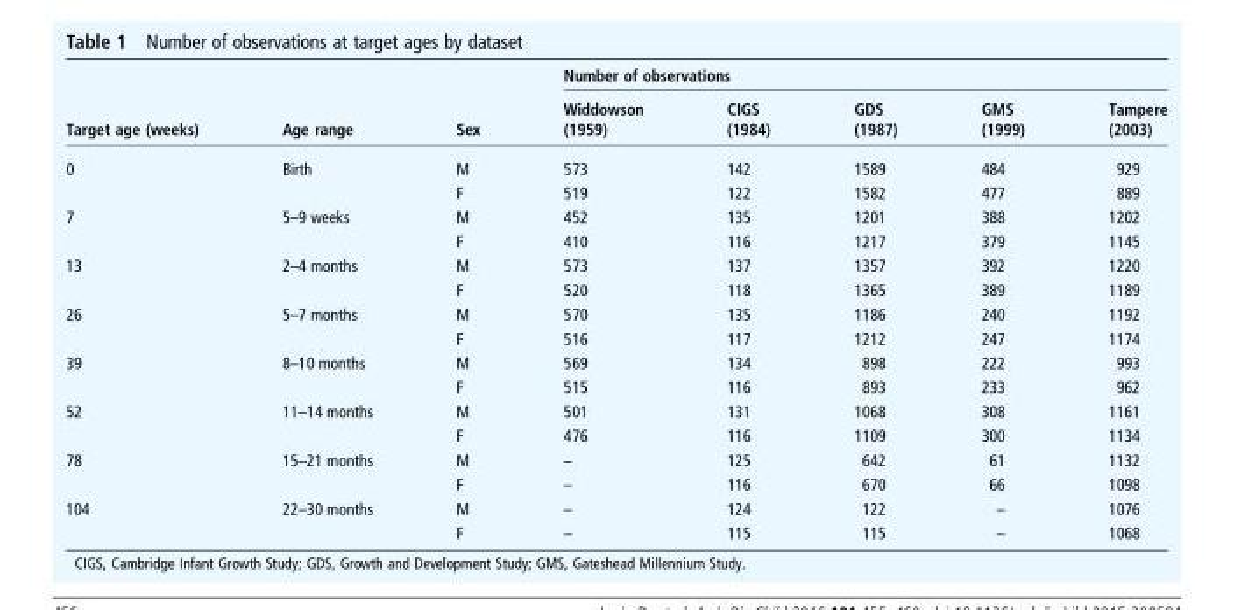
<table><thead><tr><td rowspan="2">Target age (weeks)</td><td rowspan="2">Age range</td><td rowspan="2">Sex</td><td colspan="5">Number of observations</td></tr><tr><td>Widdowson (1959)</td><td>CIGS (1984)</td><td>GDS (1987)</td><td>GMS (1999)</td><td>Tampere (2003)</td></tr></thead><tbody><tr><td rowspan="2">0</td><td>Birth</td><td>M</td><td>573</td><td>142</td><td>1589</td><td>484</td><td>929</td></tr><tr><td></td><td>F</td><td>519</td><td>122</td><td>1582</td><td>477</td><td>889</td></tr><tr><td rowspan="2">7</td><td>5–9 weeks</td><td>M</td><td>452</td><td>135</td><td>1201</td><td>388</td><td>1202</td></tr><tr><td></td><td>F</td><td>410</td><td>116</td><td>1217</td><td>379</td><td>1145</td></tr><tr><td rowspan="2">13</td><td>2–4 months</td><td>M</td><td>573</td><td>137</td><td>1357</td><td>392</td><td>1220</td></tr><tr><td></td><td>F</td><td>520</td><td>118</td><td>1365</td><td>389</td><td>1189</td></tr><tr><td rowspan="2">26</td><td>5–7 months</td><td>M</td><td>570</td><td>135</td><td>1186</td><td>240</td><td>1192</td></tr><tr><td></td><td>F</td><td>516</td><td>117</td><td>1212</td><td>247</td><td>1174</td></tr><tr><td rowspan="2">39</td><td>8–10 months</td><td>M</td><td>569</td><td>134</td><td>898</td><td>222</td><td>993</td></tr><tr><td></td><td>F</td><td>515</td><td>116</td><td>893</td><td>233</td><td>962</td></tr><tr><td rowspan="2">52</td><td>11–14 months</td><td>M</td><td>501</td><td>131</td><td>1068</td><td>308</td><td>1161</td></tr><tr><td></td><td>F</td><td>476</td><td>116</td><td>1109</td><td>300</td><td>1134</td></tr><tr><td rowspan="2">78</td><td>15–21 months</td><td>M</td><td>–</td><td>125</td><td>642</td><td>61</td><td>1132</td></tr><tr><td></td><td>F</td><td>–</td><td>116</td><td>670</td><td>66</td><td>1098</td></tr><tr><td rowspan="2">104</td><td>22–30 months</td><td>M</td><td>–</td><td>124</td><td>122</td><td>–</td><td>1076</td></tr><tr><td></td><td>F</td><td>–</td><td>115</td><td>115</td><td>–</td><td>1068</td></tr></tbody></table>